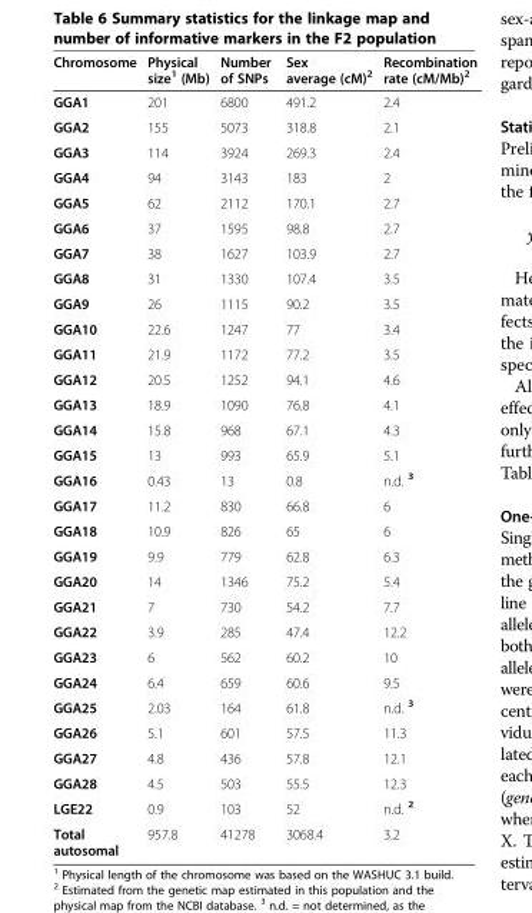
<table><thead><tr><td>Chromosome</td><td>Physical size<sup>1</sup> (Mb)</td><td>Number of SNPs</td><td>Sex average (cM)<sup>2</sup></td><td>Recombination rate (cM/Mb)<sup>2</sup></td></tr></thead><tbody><tr><td>GGA1</td><td>201</td><td>6800</td><td>491.2</td><td>2.4</td></tr><tr><td>GGA2</td><td>155</td><td>5073</td><td>318.8</td><td>2.1</td></tr><tr><td>GGA3</td><td>114</td><td>3924</td><td>269.3</td><td>2.4</td></tr><tr><td>GGA4</td><td>94</td><td>3143</td><td>183</td><td>2</td></tr><tr><td>GGA5</td><td>62</td><td>2112</td><td>170.1</td><td>2.7</td></tr><tr><td>GGA6</td><td>37</td><td>1595</td><td>98.8</td><td>2.7</td></tr><tr><td>GGA7</td><td>38</td><td>1627</td><td>103.9</td><td>2.7</td></tr><tr><td>GGA8</td><td>31</td><td>1330</td><td>107.4</td><td>3.5</td></tr><tr><td>GGA9</td><td>26</td><td>1115</td><td>90.2</td><td>3.5</td></tr><tr><td>GGA10</td><td>22.6</td><td>1247</td><td>77</td><td>3.4</td></tr><tr><td>GGA11</td><td>21.9</td><td>1172</td><td>77.2</td><td>3.5</td></tr><tr><td>GGA12</td><td>20.5</td><td>1252</td><td>94.1</td><td>4.6</td></tr><tr><td>GGA13</td><td>18.9</td><td>1090</td><td>76.8</td><td>4.1</td></tr><tr><td>GGA14</td><td>15.8</td><td>968</td><td>67.1</td><td>4.3</td></tr><tr><td>GGA15</td><td>13</td><td>993</td><td>65.9</td><td>5.1</td></tr><tr><td>GGA16</td><td>0.43</td><td>13</td><td>0.8</td><td>n.d. <sup>3</sup></td></tr><tr><td>GGA17</td><td>11.2</td><td>830</td><td>66.8</td><td>6</td></tr><tr><td>GGA18</td><td>10.9</td><td>826</td><td>65</td><td>6</td></tr><tr><td>GGA19</td><td>9.9</td><td>779</td><td>62.8</td><td>6.3</td></tr><tr><td>GGA20</td><td>14</td><td>1346</td><td>75.2</td><td>5.4</td></tr><tr><td>GGA21</td><td>7</td><td>730</td><td>54.2</td><td>7.7</td></tr><tr><td>GGA22</td><td>3.9</td><td>285</td><td>47.4</td><td>12.2</td></tr><tr><td>GGA23</td><td>6</td><td>562</td><td>60.2</td><td>10</td></tr><tr><td>GGA24</td><td>6.4</td><td>659</td><td>60.6</td><td>9.5</td></tr><tr><td>GGA25</td><td>2.03</td><td>164</td><td>61.8</td><td>n.d. <sup>3</sup></td></tr><tr><td>GGA26</td><td>5.1</td><td>601</td><td>57.5</td><td>11.3</td></tr><tr><td>GGA27</td><td>4.8</td><td>436</td><td>57.8</td><td>12.1</td></tr><tr><td>GGA28</td><td>4.5</td><td>503</td><td>55.5</td><td>12.3</td></tr><tr><td>LGE22</td><td>0.9</td><td>103</td><td>52</td><td>n.d. <sup>2</sup></td></tr><tr><td>Total autosomal</td><td>957.8</td><td>41278</td><td>3068.4</td><td>3.2</td></tr></tbody></table>